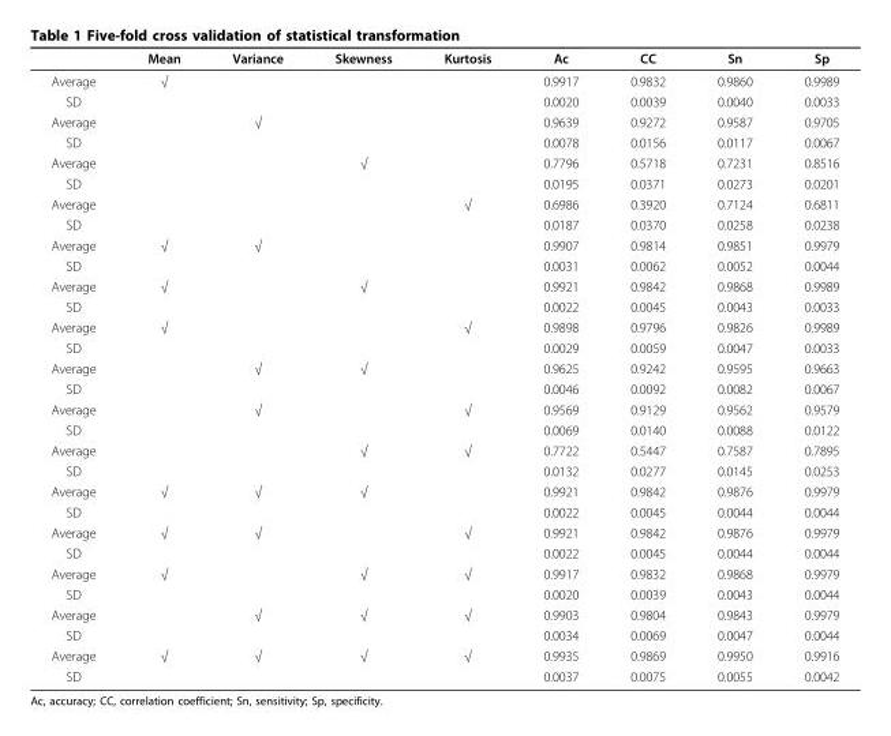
<table><thead><tr><td></td><td>Mean</td><td>Variance</td><td>Skewness</td><td>Kurtosis</td><td>Ac</td><td>CC</td><td>Sn</td><td>Sp</td></tr></thead><tbody><tr><td>Average</td><td>√</td><td></td><td></td><td></td><td>0.9917</td><td>0.9832</td><td>0.9860</td><td>0.9989</td></tr><tr><td>SD</td><td></td><td></td><td></td><td></td><td>0.0020</td><td>0.0039</td><td>0.0040</td><td>0.0033</td></tr><tr><td>Average</td><td></td><td>√</td><td></td><td></td><td>0.9639</td><td>0.9272</td><td>0.9587</td><td>0.9705</td></tr><tr><td>SD</td><td></td><td></td><td></td><td></td><td>0.0078</td><td>0.0156</td><td>0.0117</td><td>0.0067</td></tr><tr><td>Average</td><td></td><td></td><td>√</td><td></td><td>0.7796</td><td>0.5718</td><td>0.7231</td><td>0.8516</td></tr><tr><td>SD</td><td></td><td></td><td></td><td></td><td>0.0195</td><td>0.0371</td><td>0.0273</td><td>0.0201</td></tr><tr><td>Average</td><td></td><td></td><td></td><td>√</td><td>0.6986</td><td>0.3920</td><td>0.7124</td><td>0.6811</td></tr><tr><td>SD</td><td></td><td></td><td></td><td></td><td>0.0187</td><td>0.0370</td><td>0.0258</td><td>0.0238</td></tr><tr><td>Average</td><td>√</td><td>√</td><td></td><td></td><td>0.9907</td><td>0.9814</td><td>0.9851</td><td>0.9979</td></tr><tr><td>SD</td><td></td><td></td><td></td><td></td><td>0.0031</td><td>0.0062</td><td>0.0052</td><td>0.0044</td></tr><tr><td>Average</td><td>√</td><td></td><td>√</td><td></td><td>0.9921</td><td>0.9842</td><td>0.9868</td><td>0.9989</td></tr><tr><td>SD</td><td></td><td></td><td></td><td></td><td>0.0022</td><td>0.0045</td><td>0.0043</td><td>0.0033</td></tr><tr><td>Average</td><td>√</td><td></td><td></td><td>√</td><td>0.9898</td><td>0.9796</td><td>0.9826</td><td>0.9989</td></tr><tr><td>SD</td><td></td><td></td><td></td><td></td><td>0.0029</td><td>0.0059</td><td>0.0047</td><td>0.0033</td></tr><tr><td>Average</td><td></td><td>√</td><td>√</td><td></td><td>0.9625</td><td>0.9242</td><td>0.9595</td><td>0.9663</td></tr><tr><td>SD</td><td></td><td></td><td></td><td></td><td>0.0046</td><td>0.0092</td><td>0.0082</td><td>0.0067</td></tr><tr><td>Average</td><td></td><td>√</td><td></td><td>√</td><td>0.9569</td><td>0.9129</td><td>0.9562</td><td>0.9579</td></tr><tr><td>SD</td><td></td><td></td><td></td><td></td><td>0.0069</td><td>0.0140</td><td>0.0088</td><td>0.0122</td></tr><tr><td>Average</td><td></td><td></td><td>√</td><td>√</td><td>0.7722</td><td>0.5447</td><td>0.7587</td><td>0.7895</td></tr><tr><td>SD</td><td></td><td></td><td></td><td></td><td>0.0132</td><td>0.0277</td><td>0.0145</td><td>0.0253</td></tr><tr><td>Average</td><td>√</td><td>√</td><td>√</td><td></td><td>0.9921</td><td>0.9842</td><td>0.9876</td><td>0.9979</td></tr><tr><td>SD</td><td></td><td></td><td></td><td></td><td>0.0022</td><td>0.0045</td><td>0.0044</td><td>0.0044</td></tr><tr><td>Average</td><td>√</td><td>√</td><td></td><td>√</td><td>0.9921</td><td>0.9842</td><td>0.9876</td><td>0.9979</td></tr><tr><td>SD</td><td></td><td></td><td></td><td></td><td>0.0022</td><td>0.0045</td><td>0.0044</td><td>0.0044</td></tr><tr><td>Average</td><td>√</td><td></td><td>√</td><td>√</td><td>0.9917</td><td>0.9832</td><td>0.9868</td><td>0.9979</td></tr><tr><td>SD</td><td></td><td></td><td></td><td></td><td>0.0020</td><td>0.0039</td><td>0.0043</td><td>0.0044</td></tr><tr><td>Average</td><td></td><td>√</td><td>√</td><td>√</td><td>0.9903</td><td>0.9804</td><td>0.9843</td><td>0.9979</td></tr><tr><td>SD</td><td></td><td></td><td></td><td></td><td>0.0034</td><td>0.0069</td><td>0.0047</td><td>0.0044</td></tr><tr><td>Average</td><td>√</td><td>√</td><td>√</td><td>√</td><td>0.9935</td><td>0.9869</td><td>0.9950</td><td>0.9916</td></tr><tr><td>SD</td><td></td><td></td><td></td><td></td><td>0.0037</td><td>0.0075</td><td>0.0055</td><td>0.0042</td></tr></tbody></table>